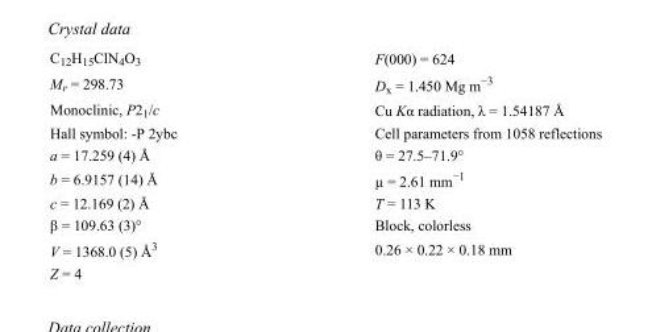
<table><tbody><tr><td>C<sub>12</sub>H<sub>15</sub>ClN<sub>4</sub>O<sub>3</sub></td><td>F(000) = 624</td></tr><tr><td>M<sub>r</sub> = 298.73</td><td>D<sub>x</sub> = 1.450 Mg m<sup>−3</sup></td></tr><tr><td>Monoclinic, P2<sub>1</sub>/c</td><td>Cu Kα radiation, λ = 1.54187 Å</td></tr><tr><td>Hall symbol: -P 2ybc</td><td>Cell parameters from 1058 reflections</td></tr><tr><td>a = 17.259 (4) Å</td><td>θ = 27.5–71.9°</td></tr><tr><td>b = 6.9157 (14) Å</td><td>µ = 2.61 mm<sup>−1</sup></td></tr><tr><td>c = 12.169 (2) Å</td><td>T = 113 K</td></tr><tr><td>β = 109.63 (3)°</td><td>Block, colorless</td></tr><tr><td>V = 1368.0 (5) Å<sup>3</sup></td><td>0.26 × 0.22 × 0.18 mm</td></tr><tr><td>Z = 4</td><td></td></tr></tbody></table>